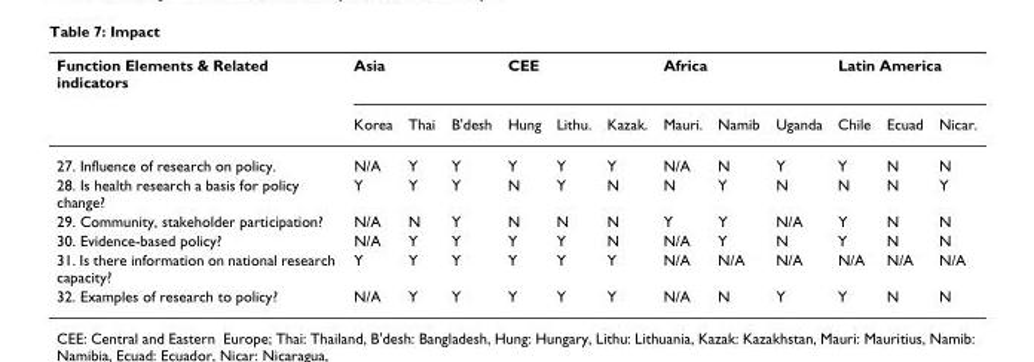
<table><thead><tr><td rowspan="2">Function Elements &amp; Related indicators</td><td colspan="3">Asia</td><td colspan="3">CEE</td><td colspan="3">Africa</td><td colspan="3">Latin America</td></tr><tr><td>Korea</td><td>Thai</td><td>B&#x27;desh</td><td>Hung</td><td>Lithu.</td><td>Kazak.</td><td>Mauri.</td><td>Namib</td><td>Uganda</td><td>Chile</td><td>Ecuad</td><td>Nicar.</td></tr></thead><tbody><tr><td>27. Influence of research on policy.</td><td>N/A</td><td>Y</td><td>Y</td><td>Y</td><td>Y</td><td>Y</td><td>N/A</td><td>N</td><td>Y</td><td>Y</td><td>N</td><td>N</td></tr><tr><td>28. Is health research a basis for policy change?</td><td>Y</td><td>Y</td><td>Y</td><td>N</td><td>Y</td><td>N</td><td>N</td><td>Y</td><td>N</td><td>N</td><td>N</td><td>Y</td></tr><tr><td>29. Community, stakeholder participation?</td><td>N/A</td><td>N</td><td>Y</td><td>N</td><td>N</td><td>N</td><td>Y</td><td>Y</td><td>N/A</td><td>Y</td><td>N</td><td>N</td></tr><tr><td>30. Evidence-based policy?</td><td>N/A</td><td>Y</td><td>Y</td><td>Y</td><td>Y</td><td>N</td><td>N/A</td><td>Y</td><td>N</td><td>Y</td><td>N</td><td>N</td></tr><tr><td>31. Is there information on national research capacity?</td><td>Y</td><td>Y</td><td>Y</td><td>Y</td><td>Y</td><td>Y</td><td>N/A</td><td>N/A</td><td>N/A</td><td>N/A</td><td>N/A</td><td>N/A</td></tr><tr><td>32. Examples of research to policy?</td><td>N/A</td><td>Y</td><td>Y</td><td>Y</td><td>Y</td><td>Y</td><td>N/A</td><td>N</td><td>Y</td><td>Y</td><td>N</td><td>N</td></tr></tbody></table>